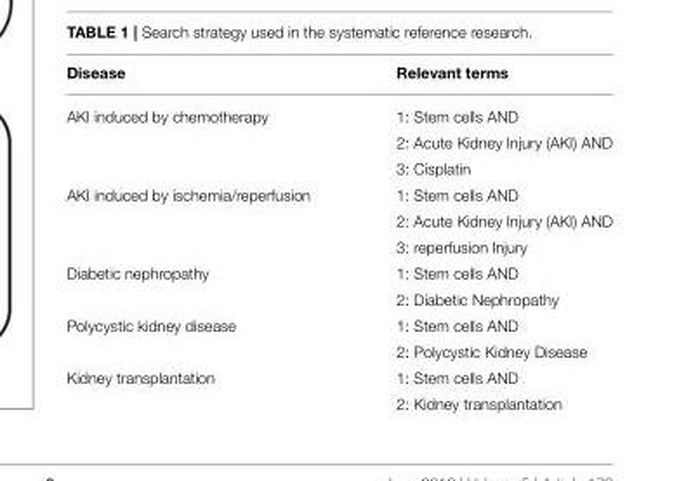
<table><thead><tr><td>Disease</td><td>Relevant terms</td></tr></thead><tbody><tr><td rowspan="3">AKI induced by chemotherapy</td><td>1: Stem cells AND</td></tr><tr><td>2: Acute Kidney Injury (AKI) AND</td></tr><tr><td>3: Cisplatin</td></tr><tr><td rowspan="3">AKI induced by ischemia/reperfusion</td><td>1: Stem cells AND</td></tr><tr><td>2: Acute Kidney Injury (AKI) AND</td></tr><tr><td>3: reperfusion Injury</td></tr><tr><td rowspan="2">Diabetic nephropathy</td><td>1: Stem cells AND</td></tr><tr><td>2: Diabetic Nephropathy</td></tr><tr><td rowspan="2">Polycystic kidney disease</td><td>1: Stem cells AND</td></tr><tr><td>2: Polycystic Kidney Disease</td></tr><tr><td rowspan="2">Kidney transplantation</td><td>1: Stem cells AND</td></tr><tr><td>2: Kidney transplantation</td></tr></tbody></table>